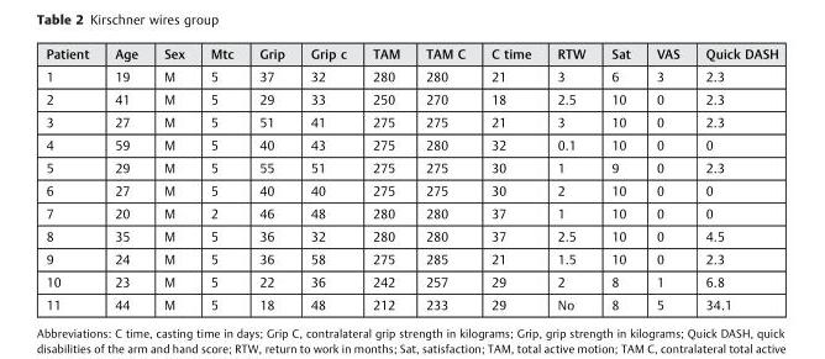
<table><thead><tr><td>Patient</td><td>Age</td><td>Sex</td><td>Mtc</td><td>Grip</td><td>Grip c</td><td>TAM</td><td>TAM C</td><td>C time</td><td>RTW</td><td>Sat</td><td>VAS</td><td>Quick DASH</td></tr></thead><tbody><tr><td>1</td><td>19</td><td>M</td><td>5</td><td>37</td><td>32</td><td>280</td><td>280</td><td>21</td><td>3</td><td>6</td><td>3</td><td>2.3</td></tr><tr><td>2</td><td>41</td><td>M</td><td>5</td><td>29</td><td>33</td><td>250</td><td>270</td><td>18</td><td>2.5</td><td>10</td><td>0</td><td>2.3</td></tr><tr><td>3</td><td>27</td><td>M</td><td>5</td><td>51</td><td>41</td><td>275</td><td>275</td><td>21</td><td>3</td><td>10</td><td>0</td><td>2.3</td></tr><tr><td>4</td><td>59</td><td>M</td><td>5</td><td>40</td><td>43</td><td>275</td><td>280</td><td>32</td><td>0.1</td><td>10</td><td>0</td><td>0</td></tr><tr><td>5</td><td>29</td><td>M</td><td>5</td><td>55</td><td>51</td><td>275</td><td>275</td><td>30</td><td>1</td><td>9</td><td>0</td><td>2.3</td></tr><tr><td>6</td><td>27</td><td>M</td><td>5</td><td>40</td><td>40</td><td>275</td><td>275</td><td>30</td><td>2</td><td>10</td><td>0</td><td>0</td></tr><tr><td>7</td><td>20</td><td>M</td><td>2</td><td>46</td><td>48</td><td>280</td><td>280</td><td>37</td><td>1</td><td>10</td><td>0</td><td>0</td></tr><tr><td>8</td><td>35</td><td>M</td><td>5</td><td>36</td><td>32</td><td>280</td><td>280</td><td>37</td><td>2.5</td><td>10</td><td>0</td><td>4.5</td></tr><tr><td>9</td><td>24</td><td>M</td><td>5</td><td>36</td><td>58</td><td>275</td><td>285</td><td>21</td><td>1.5</td><td>10</td><td>0</td><td>2.3</td></tr><tr><td>10</td><td>23</td><td>M</td><td>5</td><td>22</td><td>36</td><td>242</td><td>257</td><td>29</td><td>2</td><td>8</td><td>1</td><td>6.8</td></tr><tr><td>11</td><td>44</td><td>M</td><td>5</td><td>18</td><td>48</td><td>212</td><td>233</td><td>29</td><td>No</td><td>8</td><td>5</td><td>34.1</td></tr></tbody></table>